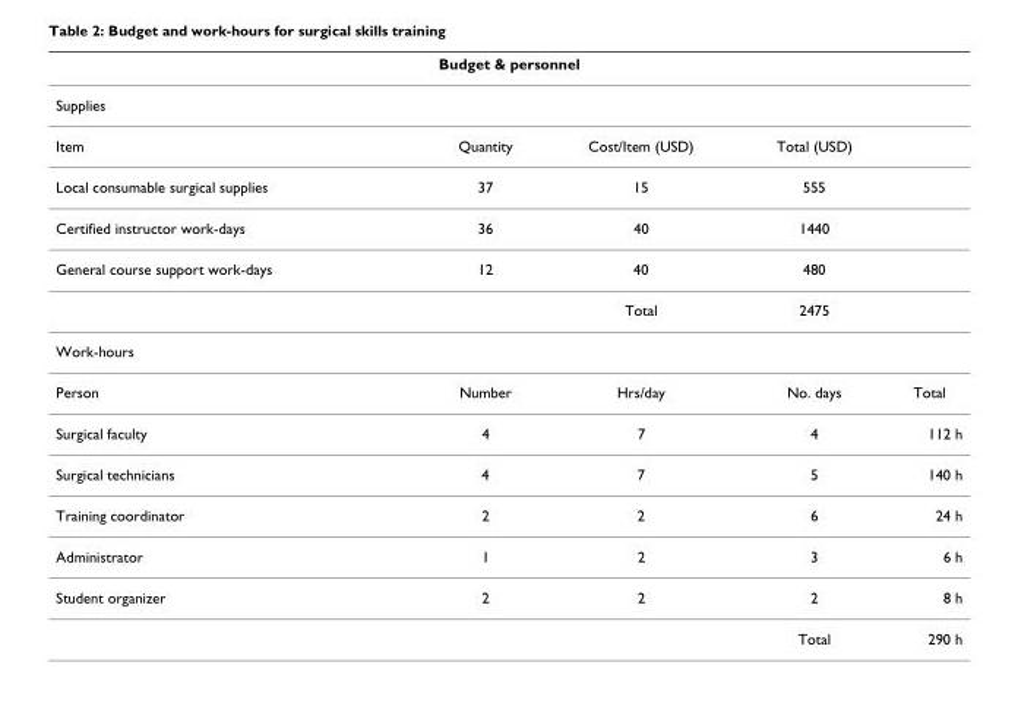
<table><thead><tr><td colspan="5">Budget &amp; personnel</td></tr><tr><td>Supplies</td><td></td><td></td><td></td><td></td></tr></thead><tbody><tr><td>Item</td><td>Quantity</td><td>Cost/Item (USD)</td><td>Total (USD)</td><td></td></tr><tr><td>Local consumable surgical supplies</td><td>37</td><td>15</td><td>555</td><td></td></tr><tr><td>Certified instructor work-days</td><td>36</td><td>40</td><td>1440</td><td></td></tr><tr><td rowspan="2">General course support work-days</td><td>12</td><td>40</td><td>480</td><td></td></tr><tr><td></td><td>Total</td><td>2475</td><td></td></tr><tr><td colspan="5">Work-hours</td></tr><tr><td>Person</td><td>Number</td><td>Hrs/day</td><td>No. days</td><td>Total</td></tr><tr><td>Surgical faculty</td><td>4</td><td>7</td><td>4</td><td>112 h</td></tr><tr><td>Surgical technicians</td><td>4</td><td>7</td><td>5</td><td>140 h</td></tr><tr><td>Training coordinator</td><td>2</td><td>2</td><td>6</td><td>24 h</td></tr><tr><td>Administrator</td><td>1</td><td>2</td><td>3</td><td>6 h</td></tr><tr><td rowspan="2">Student organizer</td><td>2</td><td>2</td><td>2</td><td>8 h</td></tr><tr><td></td><td></td><td>Total</td><td>290 h</td></tr></tbody></table>